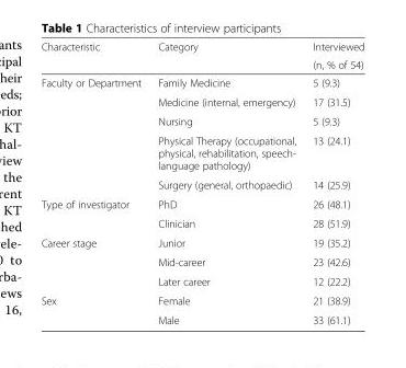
<table><thead><tr><td rowspan="2">Characteristic</td><td rowspan="2">Category</td><td rowspan="2">Interviewed (n, % of 54)</td></tr><tr></tr></thead><tbody><tr><td rowspan="5">Faculty or Department</td><td>Family Medicine</td><td>5 (9.3)</td></tr><tr><td>Medicine (internal, emergency)</td><td>17 (31.5)</td></tr><tr><td>Nursing</td><td>5 (9.3)</td></tr><tr><td>Physical Therapy (occupational, physical, rehabilitation, speech- language pathology)</td><td>13 (24.1)</td></tr><tr><td>Surgery (general, orthopaedic)</td><td>14 (25.9)</td></tr><tr><td rowspan="2">Type of investigator</td><td>PhD</td><td>26 (48.1)</td></tr><tr><td>Clinician</td><td>28 (51.9)</td></tr><tr><td rowspan="3">Career stage</td><td>Junior</td><td>19 (35.2)</td></tr><tr><td>Mid-career</td><td>23 (42.6)</td></tr><tr><td>Later career</td><td>12 (22.2)</td></tr><tr><td rowspan="2">Sex</td><td>Female</td><td>21 (38.9)</td></tr><tr><td>Male</td><td>33 (61.1)</td></tr></tbody></table>